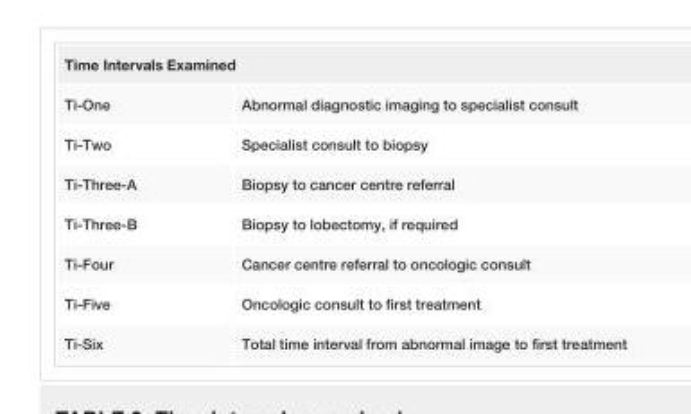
<table><tbody><tr><td colspan="2">Time Intervals Examined</td></tr><tr><td>Ti-One</td><td>Abnormal diagnostic imaging to specialist consult</td></tr><tr><td>Ti-Two</td><td>Specialist consult to biopsy</td></tr><tr><td>Ti-Three-A</td><td>Biopsy to cancer centre referral</td></tr><tr><td>Ti-Three-B</td><td>Biopsy to lobectomy, if required</td></tr><tr><td>Ti-Four</td><td>Cancer centre referral to oncologic consult</td></tr><tr><td>Ti-Five</td><td>Oncologic consult to first treatment</td></tr><tr><td>Ti-Six</td><td>Total time interval from abnormal image to first treatment</td></tr></tbody></table>